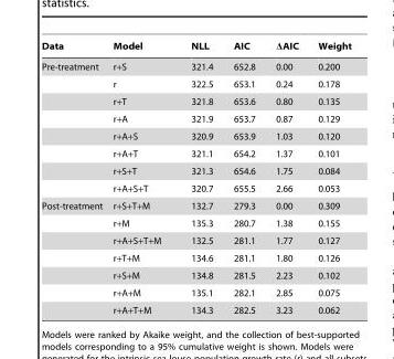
<table><thead><tr><td>Data</td><td>Model</td><td>NLL</td><td>AIC</td><td>ΔAIC</td><td>Weight</td></tr></thead><tbody><tr><td rowspan="8">Pre-treatment</td><td>r+S</td><td>321.4</td><td>652.8</td><td>0.00</td><td>0.200</td></tr><tr><td>r</td><td>322.5</td><td>653.1</td><td>0.24</td><td>0.178</td></tr><tr><td>r+T</td><td>321.8</td><td>653.6</td><td>0.80</td><td>0.135</td></tr><tr><td>r+A</td><td>321.9</td><td>653.7</td><td>0.87</td><td>0.129</td></tr><tr><td>r+A+S</td><td>320.9</td><td>653.9</td><td>1.03</td><td>0.120</td></tr><tr><td>r+A+T</td><td>321.1</td><td>654.2</td><td>1.37</td><td>0.101</td></tr><tr><td>r+S+T</td><td>321.3</td><td>654.6</td><td>1.75</td><td>0.084</td></tr><tr><td>r+A+S+T</td><td>320.7</td><td>655.5</td><td>2.66</td><td>0.053</td></tr><tr><td rowspan="7">Post-treatment</td><td>r+S+T+M</td><td>132.7</td><td>279.3</td><td>0.00</td><td>0.309</td></tr><tr><td>r+M</td><td>135.3</td><td>280.7</td><td>1.38</td><td>0.155</td></tr><tr><td>r+A+S+T+M</td><td>132.5</td><td>281.1</td><td>1.77</td><td>0.127</td></tr><tr><td>r+T+M</td><td>134.6</td><td>281.1</td><td>1.80</td><td>0.126</td></tr><tr><td>r+S+M</td><td>134.8</td><td>281.5</td><td>2.23</td><td>0.102</td></tr><tr><td>r+A+M</td><td>135.1</td><td>282.1</td><td>2.85</td><td>0.075</td></tr><tr><td>r+A+T+M</td><td>134.3</td><td>282.5</td><td>3.23</td><td>0.062</td></tr></tbody></table>